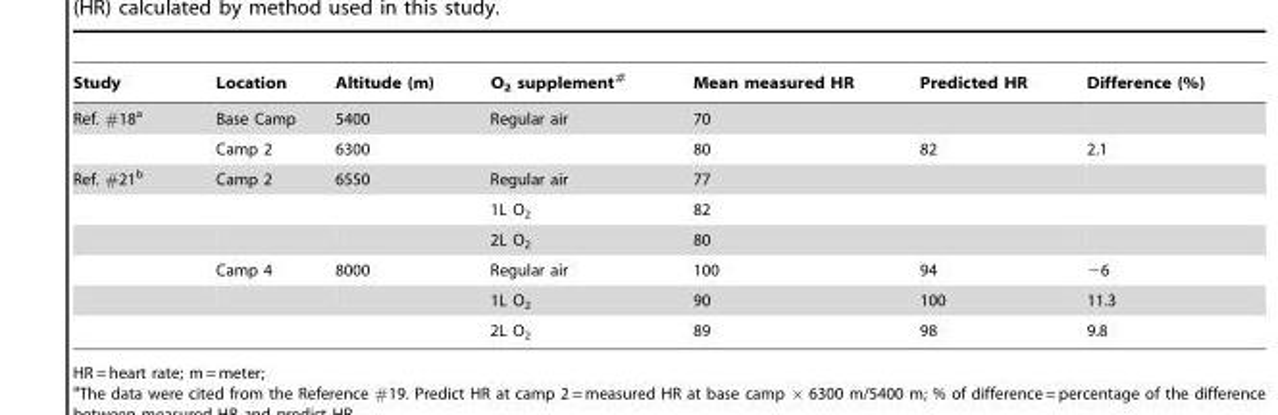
<table><thead><tr><td>Study</td><td>Location</td><td>Altitude (m)</td><td>O<sub>2</sub> supplement#</td><td>Mean measured HR</td><td>Predicted HR</td><td>Difference (%)</td></tr></thead><tbody><tr><td rowspan="2">Ref. #18<sup>a</sup></td><td>Base Camp</td><td>5400</td><td>Regular air</td><td>70</td><td></td><td></td></tr><tr><td>Camp 2</td><td>6300</td><td></td><td>80</td><td>82</td><td>2.1</td></tr><tr><td rowspan="6">Ref. #21<sup>b</sup></td><td>Camp 2</td><td>6550</td><td>Regular air</td><td>77</td><td></td><td></td></tr><tr><td></td><td></td><td>1L O<sub>2</sub></td><td>82</td><td></td><td></td></tr><tr><td></td><td></td><td>2L O<sub>2</sub></td><td>80</td><td></td><td></td></tr><tr><td>Camp 4</td><td>8000</td><td>Regular air</td><td>100</td><td>94</td><td>−6</td></tr><tr><td></td><td></td><td>1L O<sub>2</sub></td><td>90</td><td>100</td><td>11.3</td></tr><tr><td></td><td></td><td>2L O<sub>2</sub></td><td>89</td><td>98</td><td>9.8</td></tr></tbody></table>